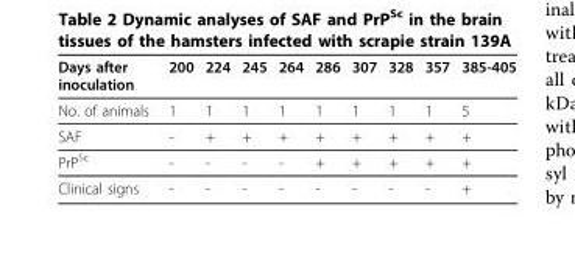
<table><thead><tr><td>Days after inoculation</td><td>200</td><td>224</td><td>245</td><td>264</td><td>286</td><td>307</td><td>328</td><td>357</td><td>385-405</td></tr></thead><tbody><tr><td>No. of animals</td><td>1</td><td>1</td><td>1</td><td>1</td><td>1</td><td>1</td><td>1</td><td>1</td><td>5</td></tr><tr><td>SAF</td><td>-</td><td>+</td><td>+</td><td>+</td><td>+</td><td>+</td><td>+</td><td>+</td><td>+</td></tr><tr><td>PrP<sup>Sc</sup></td><td>-</td><td>-</td><td>-</td><td>-</td><td>+</td><td>+</td><td>+</td><td>+</td><td>+</td></tr><tr><td>Clinical signs</td><td>-</td><td>-</td><td>-</td><td>-</td><td>-</td><td>-</td><td>-</td><td>-</td><td>+</td></tr></tbody></table>